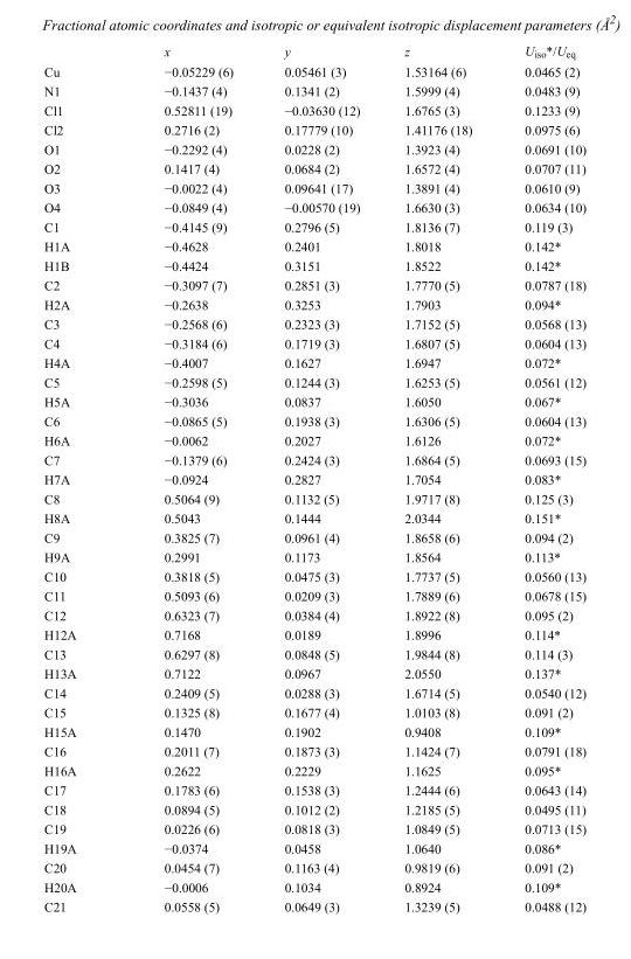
<table><thead><tr><td></td><td>x</td><td>y</td><td>z</td><td>U<sub>iso</sub>*/U<sub>eq</sub></td></tr></thead><tbody><tr><td>Cu</td><td>−0.05229 (6)</td><td>0.05461 (3)</td><td>1.53164 (6)</td><td>0.0465 (2)</td></tr><tr><td>N1</td><td>−0.1437 (4)</td><td>0.1341 (2)</td><td>1.5999 (4)</td><td>0.0483 (9)</td></tr><tr><td>Cl1</td><td>0.52811 (19)</td><td>−0.03630 (12)</td><td>1.6765 (3)</td><td>0.1233 (9)</td></tr><tr><td>Cl2</td><td>0.2716 (2)</td><td>0.17779 (10)</td><td>1.41176 (18)</td><td>0.0975 (6)</td></tr><tr><td>O1</td><td>−0.2292 (4)</td><td>0.0228 (2)</td><td>1.3923 (4)</td><td>0.0691 (10)</td></tr><tr><td>O2</td><td>0.1417 (4)</td><td>0.0684 (2)</td><td>1.6572 (4)</td><td>0.0707 (11)</td></tr><tr><td>O3</td><td>−0.0022 (4)</td><td>0.09641 (17)</td><td>1.3891 (4)</td><td>0.0610 (9)</td></tr><tr><td>O4</td><td>−0.0849 (4)</td><td>−0.00570 (19)</td><td>1.6630 (3)</td><td>0.0634 (10)</td></tr><tr><td>C1</td><td>−0.4145 (9)</td><td>0.2796 (5)</td><td>1.8136 (7)</td><td>0.119 (3)</td></tr><tr><td>H1A</td><td>−0.4628</td><td>0.2401</td><td>1.8018</td><td>0.142*</td></tr><tr><td>H1B</td><td>−0.4424</td><td>0.3151</td><td>1.8522</td><td>0.142*</td></tr><tr><td>C2</td><td>−0.3097 (7)</td><td>0.2851 (3)</td><td>1.7770 (5)</td><td>0.0787 (18)</td></tr><tr><td>H2A</td><td>−0.2638</td><td>0.3253</td><td>1.7903</td><td>0.094*</td></tr><tr><td>C3</td><td>−0.2568 (6)</td><td>0.2323 (3)</td><td>1.7152 (5)</td><td>0.0568 (13)</td></tr><tr><td>C4</td><td>−0.3184 (6)</td><td>0.1719 (3)</td><td>1.6807 (5)</td><td>0.0604 (13)</td></tr><tr><td>H4A</td><td>−0.4007</td><td>0.1627</td><td>1.6947</td><td>0.072*</td></tr><tr><td>C5</td><td>−0.2598 (5)</td><td>0.1244 (3)</td><td>1.6253 (5)</td><td>0.0561 (12)</td></tr><tr><td>H5A</td><td>−0.3036</td><td>0.0837</td><td>1.6050</td><td>0.067*</td></tr><tr><td>C6</td><td>−0.0865 (5)</td><td>0.1938 (3)</td><td>1.6306 (5)</td><td>0.0604 (13)</td></tr><tr><td>H6A</td><td>−0.0062</td><td>0.2027</td><td>1.6126</td><td>0.072*</td></tr><tr><td>C7</td><td>−0.1379 (6)</td><td>0.2424 (3)</td><td>1.6864 (5)</td><td>0.0693 (15)</td></tr><tr><td>H7A</td><td>−0.0924</td><td>0.2827</td><td>1.7054</td><td>0.083*</td></tr><tr><td>C8</td><td>0.5064 (9)</td><td>0.1132 (5)</td><td>1.9717 (8)</td><td>0.125 (3)</td></tr><tr><td>H8A</td><td>0.5043</td><td>0.1444</td><td>2.0344</td><td>0.151*</td></tr><tr><td>C9</td><td>0.3825 (7)</td><td>0.0961 (4)</td><td>1.8658 (6)</td><td>0.094 (2)</td></tr><tr><td>H9A</td><td>0.2991</td><td>0.1173</td><td>1.8564</td><td>0.113*</td></tr><tr><td>C10</td><td>0.3818 (5)</td><td>0.0475 (3)</td><td>1.7737 (5)</td><td>0.0560 (13)</td></tr><tr><td>C11</td><td>0.5093 (6)</td><td>0.0209 (3)</td><td>1.7889 (6)</td><td>0.0678 (15)</td></tr><tr><td>C12</td><td>0.6323 (7)</td><td>0.0384 (4)</td><td>1.8922 (8)</td><td>0.095 (2)</td></tr><tr><td>H12A</td><td>0.7168</td><td>0.0189</td><td>1.8996</td><td>0.114*</td></tr><tr><td>C13</td><td>0.6297 (8)</td><td>0.0848 (5)</td><td>1.9844 (8)</td><td>0.114 (3)</td></tr><tr><td>H13A</td><td>0.7122</td><td>0.0967</td><td>2.0550</td><td>0.137*</td></tr><tr><td>C14</td><td>0.2409 (5)</td><td>0.0288 (3)</td><td>1.6714 (5)</td><td>0.0540 (12)</td></tr><tr><td>C15</td><td>0.1325 (8)</td><td>0.1677 (4)</td><td>1.0103 (8)</td><td>0.091 (2)</td></tr><tr><td>H15A</td><td>0.1470</td><td>0.1902</td><td>0.9408</td><td>0.109*</td></tr><tr><td>C16</td><td>0.2011 (7)</td><td>0.1873 (3)</td><td>1.1424 (7)</td><td>0.0791 (18)</td></tr><tr><td>H16A</td><td>0.2622</td><td>0.2229</td><td>1.1625</td><td>0.095*</td></tr><tr><td>C17</td><td>0.1783 (6)</td><td>0.1538 (3)</td><td>1.2444 (6)</td><td>0.0643 (14)</td></tr><tr><td>C18</td><td>0.0894 (5)</td><td>0.1012 (2)</td><td>1.2185 (5)</td><td>0.0495 (11)</td></tr><tr><td>C19</td><td>0.0226 (6)</td><td>0.0818 (3)</td><td>1.0849 (5)</td><td>0.0713 (15)</td></tr><tr><td>H19A</td><td>−0.0374</td><td>0.0458</td><td>1.0640</td><td>0.086*</td></tr><tr><td>C20</td><td>0.0454 (7)</td><td>0.1163 (4)</td><td>0.9819 (6)</td><td>0.091 (2)</td></tr><tr><td>H20A</td><td>−0.0006</td><td>0.1034</td><td>0.8924</td><td>0.109*</td></tr><tr><td>C21</td><td>0.0558 (5)</td><td>0.0649 (3)</td><td>1.3239 (5)</td><td>0.0488 (12)</td></tr></tbody></table>